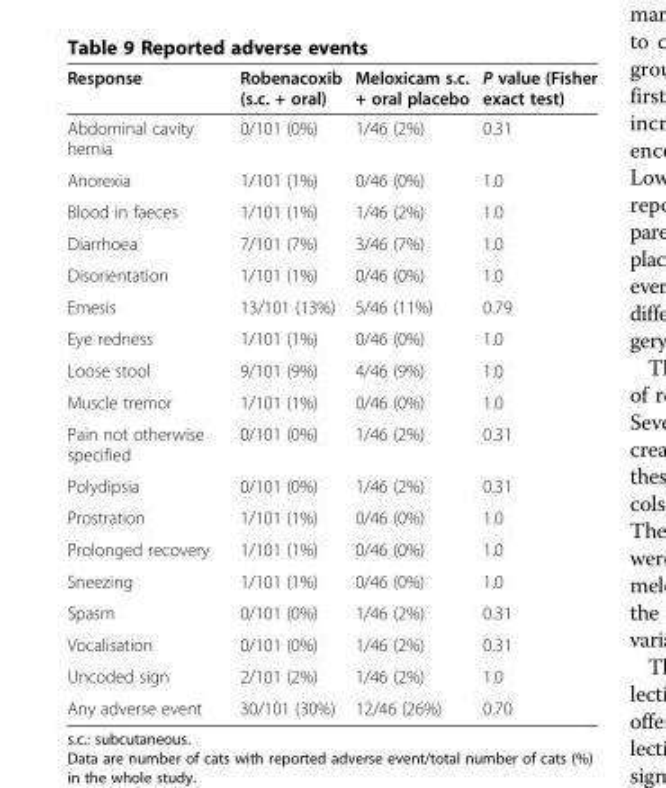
<table><thead><tr><td>Response</td><td>Robenacoxib (s.c. + oral)</td><td>Meloxicam s.c. + oral placebo</td><td>P value (Fisher exact test)</td></tr></thead><tbody><tr><td>Abdominal cavity hernia</td><td>0/101 (0%)</td><td>1/46 (2%)</td><td>0.31</td></tr><tr><td>Anorexia</td><td>1/101 (1%)</td><td>0/46 (0%)</td><td>1.0</td></tr><tr><td>Blood in faeces</td><td>1/101 (1%)</td><td>1/46 (2%)</td><td>1.0</td></tr><tr><td>Diarrhoea</td><td>7/101 (7%)</td><td>3/46 (7%)</td><td>1.0</td></tr><tr><td>Disorientation</td><td>1/101 (1%)</td><td>0/46 (0%)</td><td>1.0</td></tr><tr><td>Emesis</td><td>13/101 (13%)</td><td>5/46 (11%)</td><td>0.79</td></tr><tr><td>Eye redness</td><td>1/101 (1%)</td><td>0/46 (0%)</td><td>1.0</td></tr><tr><td>Loose stool</td><td>9/101 (9%)</td><td>4/46 (9%)</td><td>1.0</td></tr><tr><td>Muscle tremor</td><td>1/101 (1%)</td><td>0/46 (0%)</td><td>1.0</td></tr><tr><td>Pain not otherwise specified</td><td>0/101 (0%)</td><td>1/46 (2%)</td><td>0.31</td></tr><tr><td>Polydipsia</td><td>0/101 (0%)</td><td>1/46 (2%)</td><td>0.31</td></tr><tr><td>Prostration</td><td>1/101 (1%)</td><td>0/46 (0%)</td><td>1.0</td></tr><tr><td>Prolonged recovery</td><td>1/101 (1%)</td><td>0/46 (0%)</td><td>1.0</td></tr><tr><td>Sneezing</td><td>1/101 (1%)</td><td>0/46 (0%)</td><td>1.0</td></tr><tr><td>Spasm</td><td>0/101 (0%)</td><td>1/46 (2%)</td><td>0.31</td></tr><tr><td>Vocalisation</td><td>0/101 (0%)</td><td>1/46 (2%)</td><td>0.31</td></tr><tr><td>Uncoded sign</td><td>2/101 (2%)</td><td>1/46 (2%)</td><td>1.0</td></tr><tr><td>Any adverse event</td><td>30/101 (30%)</td><td>12/46 (26%)</td><td>0.70</td></tr></tbody></table>